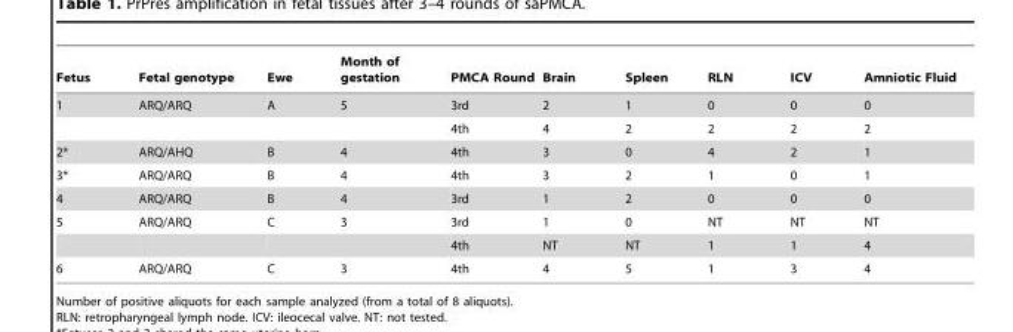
<table><thead><tr><td>Fetus</td><td>Fetal genotype</td><td>Ewe</td><td>Month of gestation</td><td>PMCA Round</td><td>Brain</td><td>Spleen</td><td>RLN</td><td>ICV</td><td>Amniotic Fluid</td></tr></thead><tbody><tr><td rowspan="2">1</td><td>ARQ/ARQ</td><td>A</td><td>5</td><td>3rd</td><td>2</td><td>1</td><td>0</td><td>0</td><td>0</td></tr><tr><td></td><td></td><td></td><td>4th</td><td>4</td><td>2</td><td>2</td><td>2</td><td>2</td></tr><tr><td>2*</td><td>ARQ/AHQ</td><td>B</td><td>4</td><td>4th</td><td>3</td><td>0</td><td>4</td><td>2</td><td>1</td></tr><tr><td>3*</td><td>ARQ/ARQ</td><td>B</td><td>4</td><td>4th</td><td>3</td><td>2</td><td>1</td><td>0</td><td>1</td></tr><tr><td>4</td><td>ARQ/ARQ</td><td>B</td><td>4</td><td>3rd</td><td>1</td><td>2</td><td>0</td><td>0</td><td>0</td></tr><tr><td rowspan="2">5</td><td>ARQ/ARQ</td><td>C</td><td>3</td><td>3rd</td><td>1</td><td>0</td><td>NT</td><td>NT</td><td>NT</td></tr><tr><td></td><td></td><td></td><td>4th</td><td>NT</td><td>NT</td><td>1</td><td>1</td><td>4</td></tr><tr><td>6</td><td>ARQ/ARQ</td><td>C</td><td>3</td><td>4th</td><td>4</td><td>5</td><td>1</td><td>3</td><td>4</td></tr></tbody></table>